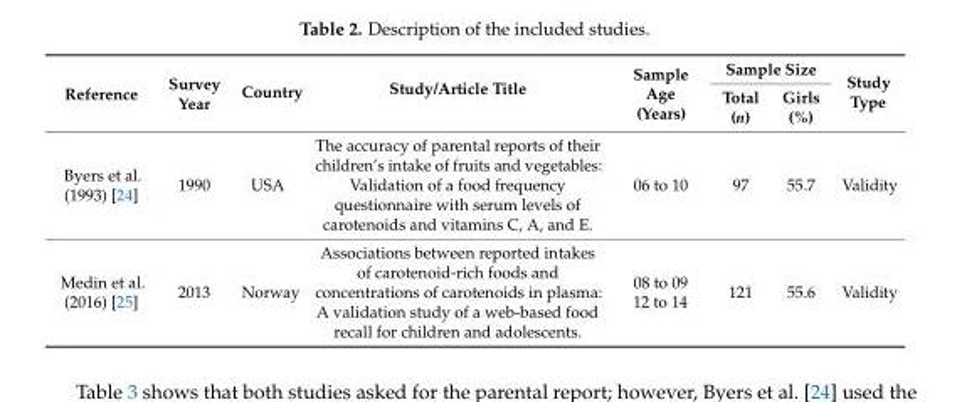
<table><thead><tr><td rowspan="2">Reference</td><td rowspan="2">Survey Year</td><td rowspan="2">Country</td><td rowspan="2">Study/Article Title</td><td rowspan="2">Sample Age (Years)</td><td colspan="2">Sample Size</td><td rowspan="2">Study Type</td></tr><tr><td>Total (n)</td><td>Girls (%)</td></tr></thead><tbody><tr><td>Byers et al. (1993) [24]</td><td>1990</td><td>USA</td><td>The accuracy of parental reports of their children’s intake of fruits and vegetables: Validation of a food frequency questionnaire with serum levels of carotenoids and vitamins C, A, and E.</td><td>06 to 10</td><td>97</td><td>55.7</td><td>Validity</td></tr><tr><td>Medin et al. (2016) [25]</td><td>2013</td><td>Norway</td><td>Associations between reported intakes of carotenoid-rich foods and concentrations of carotenoids in plasma: A validation study of a web-based food recall for children and adolescents.</td><td>08 to 09 12 to 14</td><td>121</td><td>55.6</td><td>Validity</td></tr></tbody></table>